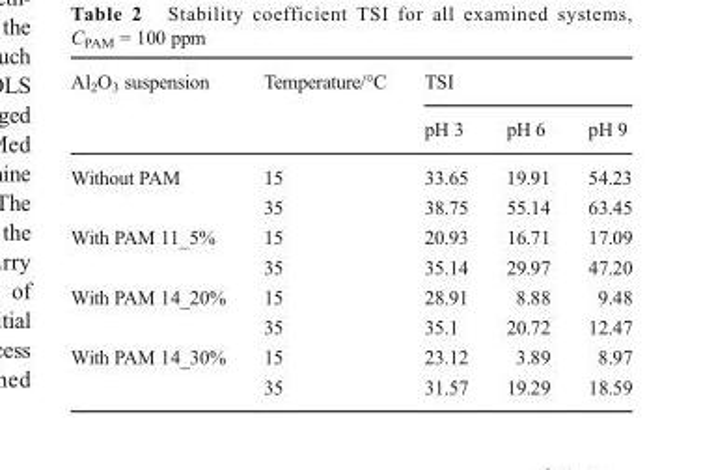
<table><thead><tr><td rowspan="2">Al<sub>2</sub>O<sub>3</sub> suspension</td><td rowspan="2">Temperature/°C</td><td colspan="3">TSI</td></tr><tr><td>pH 3</td><td>pH 6</td><td>pH 9</td></tr></thead><tbody><tr><td rowspan="2">Without PAM</td><td>15</td><td>33.65</td><td>19.91</td><td>54.23</td></tr><tr><td>35</td><td>38.75</td><td>55.14</td><td>63.45</td></tr><tr><td rowspan="2">With PAM 11_5%</td><td>15</td><td>20.93</td><td>16.71</td><td>17.09</td></tr><tr><td>35</td><td>35.14</td><td>29.97</td><td>47.20</td></tr><tr><td rowspan="2">With PAM 14_20%</td><td>15</td><td>28.91</td><td>8.88</td><td>9.48</td></tr><tr><td>35</td><td>35.1</td><td>20.72</td><td>12.47</td></tr><tr><td rowspan="2">With PAM 14_30%</td><td>15</td><td>23.12</td><td>3.89</td><td>8.97</td></tr><tr><td>35</td><td>31.57</td><td>19.29</td><td>18.59</td></tr></tbody></table>